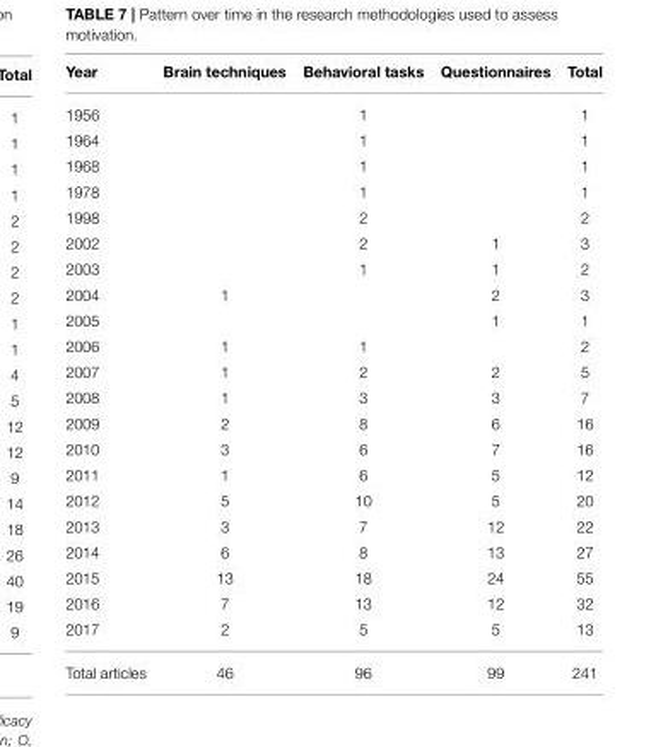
<table><thead><tr><td>Year</td><td>Brain techniques</td><td>Behavioral tasks</td><td>Questionnaires</td><td>Total</td></tr></thead><tbody><tr><td>1956</td><td></td><td>1</td><td></td><td>1</td></tr><tr><td>1964</td><td></td><td>1</td><td></td><td>1</td></tr><tr><td>1968</td><td></td><td>1</td><td></td><td>1</td></tr><tr><td>1978</td><td></td><td>1</td><td></td><td>1</td></tr><tr><td>1998</td><td></td><td>2</td><td></td><td>2</td></tr><tr><td>2002</td><td></td><td>2</td><td>1</td><td>3</td></tr><tr><td>2003</td><td></td><td>1</td><td>1</td><td>2</td></tr><tr><td>2004</td><td>1</td><td></td><td>2</td><td>3</td></tr><tr><td>2005</td><td></td><td></td><td>1</td><td>1</td></tr><tr><td>2006</td><td>1</td><td>1</td><td></td><td>2</td></tr><tr><td>2007</td><td>1</td><td>2</td><td>2</td><td>5</td></tr><tr><td>2008</td><td>1</td><td>3</td><td>3</td><td>7</td></tr><tr><td>2009</td><td>2</td><td>8</td><td>6</td><td>16</td></tr><tr><td>2010</td><td>3</td><td>6</td><td>7</td><td>16</td></tr><tr><td>2011</td><td>1</td><td>6</td><td>5</td><td>12</td></tr><tr><td>2012</td><td>5</td><td>10</td><td>5</td><td>20</td></tr><tr><td>2013</td><td>3</td><td>7</td><td>12</td><td>22</td></tr><tr><td>2014</td><td>6</td><td>8</td><td>13</td><td>27</td></tr><tr><td>2015</td><td>13</td><td>18</td><td>24</td><td>55</td></tr><tr><td>2016</td><td>7</td><td>13</td><td>12</td><td>32</td></tr><tr><td>2017</td><td>2</td><td>5</td><td>5</td><td>13</td></tr><tr><td>Total articles</td><td>46</td><td>96</td><td>99</td><td>241</td></tr></tbody></table>